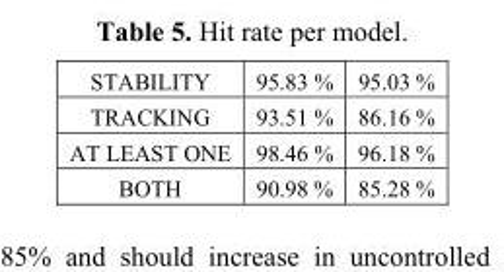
<table><tbody><tr><td>STABILITY</td><td>95.83 %</td><td>95.03 %</td></tr><tr><td>TRACKING</td><td>93.51 %</td><td>86.16 %</td></tr><tr><td>AT LEAST ONE</td><td>98.46 %</td><td>96.18 %</td></tr><tr><td>BOTH</td><td>90.98 %</td><td>85.28 %</td></tr></tbody></table>